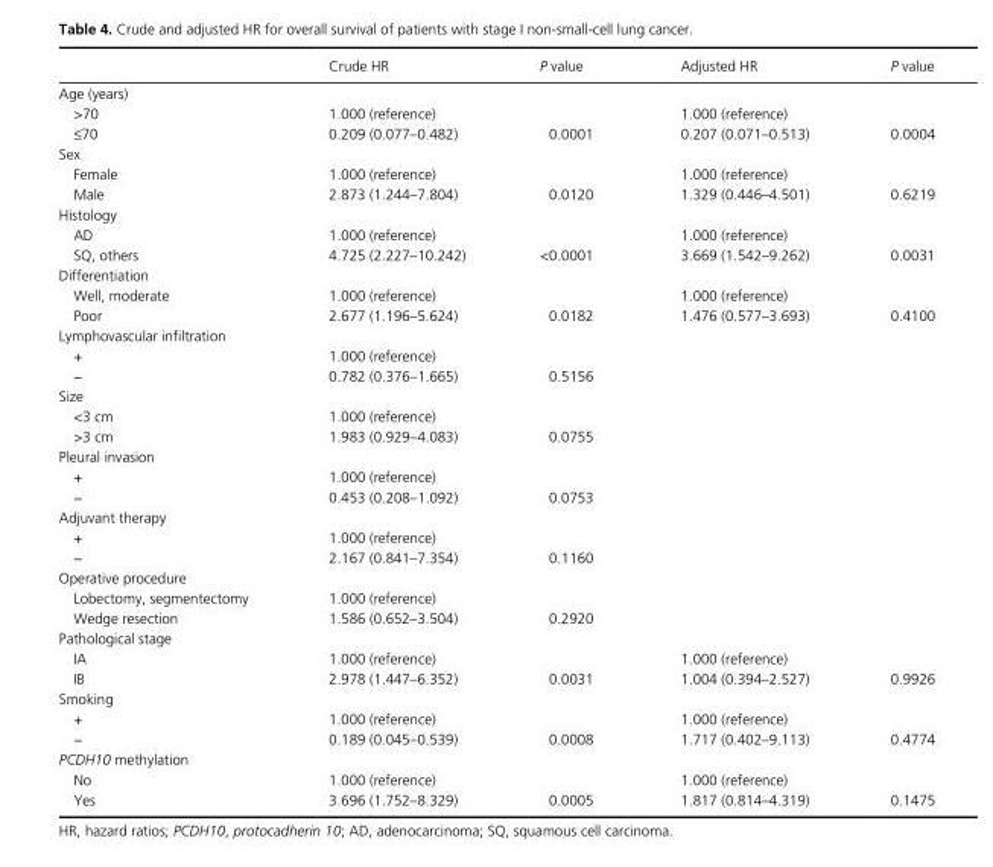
<table><thead><tr><td></td><td>Crude HR</td><td>P value</td><td>Adjusted HR</td><td>P value</td></tr></thead><tbody><tr><td colspan="5">Age (years)</td></tr><tr><td>&gt;70</td><td>1.000 (reference)</td><td></td><td>1.000 (reference)</td><td></td></tr><tr><td>≤70</td><td>0.209 (0.077–0.482)</td><td>0.0001</td><td>0.207 (0.071–0.513)</td><td>0.0004</td></tr><tr><td colspan="5">Sex</td></tr><tr><td>Female</td><td>1.000 (reference)</td><td></td><td>1.000 (reference)</td><td></td></tr><tr><td>Male</td><td>2.873 (1.244–7.804)</td><td>0.0120</td><td>1.329 (0.446–4.501)</td><td>0.6219</td></tr><tr><td colspan="5">Histology</td></tr><tr><td>AD</td><td>1.000 (reference)</td><td></td><td>1.000 (reference)</td><td></td></tr><tr><td>SQ, others</td><td>4.725 (2.227–10.242)</td><td>&lt;0.0001</td><td>3.669 (1.542–9.262)</td><td>0.0031</td></tr><tr><td colspan="5">Differentiation</td></tr><tr><td>Well, moderate</td><td>1.000 (reference)</td><td></td><td>1.000 (reference)</td><td></td></tr><tr><td>Poor</td><td>2.677 (1.196–5.624)</td><td>0.0182</td><td>1.476 (0.577–3.693)</td><td>0.4100</td></tr><tr><td colspan="5">Lymphovascular infiltration</td></tr><tr><td>+</td><td>1.000 (reference)</td><td></td><td></td><td></td></tr><tr><td>−</td><td>0.782 (0.376–1.665)</td><td>0.5156</td><td></td><td></td></tr><tr><td colspan="5">Size</td></tr><tr><td>&lt;3 cm</td><td>1.000 (reference)</td><td></td><td></td><td></td></tr><tr><td>&gt;3 cm</td><td>1.983 (0.929–4.083)</td><td>0.0755</td><td></td><td></td></tr><tr><td colspan="5">Pleural invasion</td></tr><tr><td>+</td><td>1.000 (reference)</td><td></td><td></td><td></td></tr><tr><td>−</td><td>0.453 (0.208–1.092)</td><td>0.0753</td><td></td><td></td></tr><tr><td colspan="5">Adjuvant therapy</td></tr><tr><td>+</td><td>1.000 (reference)</td><td></td><td></td><td></td></tr><tr><td>−</td><td>2.167 (0.841–7.354)</td><td>0.1160</td><td></td><td></td></tr><tr><td colspan="5">Operative procedure</td></tr><tr><td>Lobectomy, segmentectomy</td><td>1.000 (reference)</td><td></td><td></td><td></td></tr><tr><td>Wedge resection</td><td>1.586 (0.652–3.504)</td><td>0.2920</td><td></td><td></td></tr><tr><td colspan="5">Pathological stage</td></tr><tr><td>IA</td><td>1.000 (reference)</td><td></td><td>1.000 (reference)</td><td></td></tr><tr><td>IB</td><td>2.978 (1.447–6.352)</td><td>0.0031</td><td>1.004 (0.394–2.527)</td><td>0.9926</td></tr><tr><td colspan="5">Smoking</td></tr><tr><td>+</td><td>1.000 (reference)</td><td></td><td>1.000 (reference)</td><td></td></tr><tr><td>−</td><td>0.189 (0.045–0.539)</td><td>0.0008</td><td>1.717 (0.402–9.113)</td><td>0.4774</td></tr><tr><td colspan="5">PCDH10 methylation</td></tr><tr><td>No</td><td>1.000 (reference)</td><td></td><td>1.000 (reference)</td><td></td></tr><tr><td>Yes</td><td>3.696 (1.752–8.329)</td><td>0.0005</td><td>1.817 (0.814–4.319)</td><td>0.1475</td></tr></tbody></table>